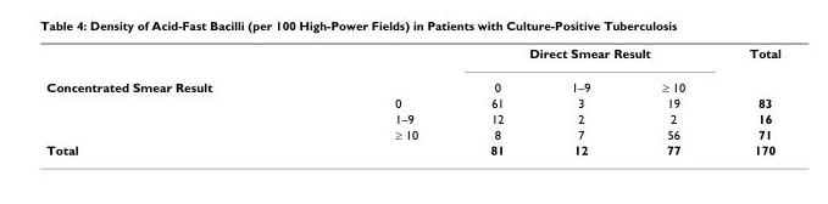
<table><thead><tr><td rowspan="2">Concentrated Smear Result</td><td rowspan="2"></td><td colspan="3">Direct Smear Result</td><td rowspan="2">Total</td></tr><tr><td>0</td><td>1–9</td><td>≥ 10</td></tr></thead><tbody><tr><td></td><td>0</td><td>61</td><td>3</td><td>19</td><td>83</td></tr><tr><td></td><td>1–9</td><td>12</td><td>2</td><td>2</td><td>16</td></tr><tr><td></td><td>≥ 10</td><td>8</td><td>7</td><td>56</td><td>71</td></tr><tr><td>Total</td><td></td><td>81</td><td>12</td><td>77</td><td>170</td></tr></tbody></table>